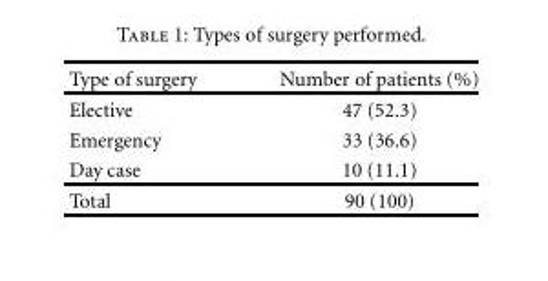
<table><thead><tr><td>Type of surgery</td><td>Number of patients (%)</td></tr></thead><tbody><tr><td>Elective</td><td>47 (52.3)</td></tr><tr><td>Emergency</td><td>33 (36.6)</td></tr><tr><td>Day case</td><td>10 (11.1)</td></tr><tr><td>Total</td><td>90 (100)</td></tr></tbody></table>